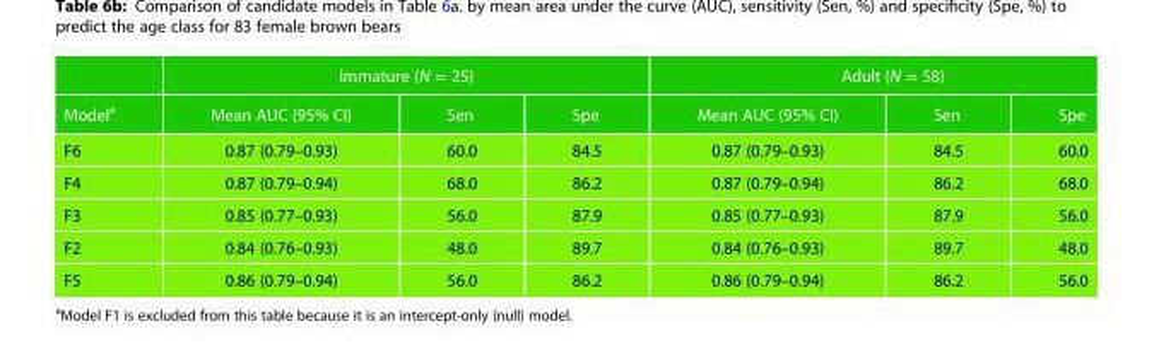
<table><thead><tr><td rowspan="2">Model<sup>a</sup></td><td colspan="3">Immature (N = 25)</td><td colspan="3">Adult (N = 58)</td></tr><tr><td>Mean AUC (95% CI)</td><td>Sen</td><td>Spe</td><td>Mean AUC (95% CI)</td><td>Sen</td><td>Spe</td></tr></thead><tbody><tr><td>F6</td><td>0.87 (0.79–0.93)</td><td>60.0</td><td>84.5</td><td>0.87 (0.79–0.93)</td><td>84.5</td><td>60.0</td></tr><tr><td>F4</td><td>0.87 (0.79–0.94)</td><td>68.0</td><td>86.2</td><td>0.87 (0.79–0.94)</td><td>86.2</td><td>68.0</td></tr><tr><td>F3</td><td>0.85 (0.77–0.93)</td><td>56.0</td><td>87.9</td><td>0.85 (0.77–0.93)</td><td>87.9</td><td>56.0</td></tr><tr><td>F2</td><td>0.84 (0.76–0.93)</td><td>48.0</td><td>89.7</td><td>0.84 (0.76–0.93)</td><td>89.7</td><td>48.0</td></tr><tr><td>F5</td><td>0.86 (0.79–0.94)</td><td>56.0</td><td>86.2</td><td>0.86 (0.79–0.94)</td><td>86.2</td><td>56.0</td></tr></tbody></table>